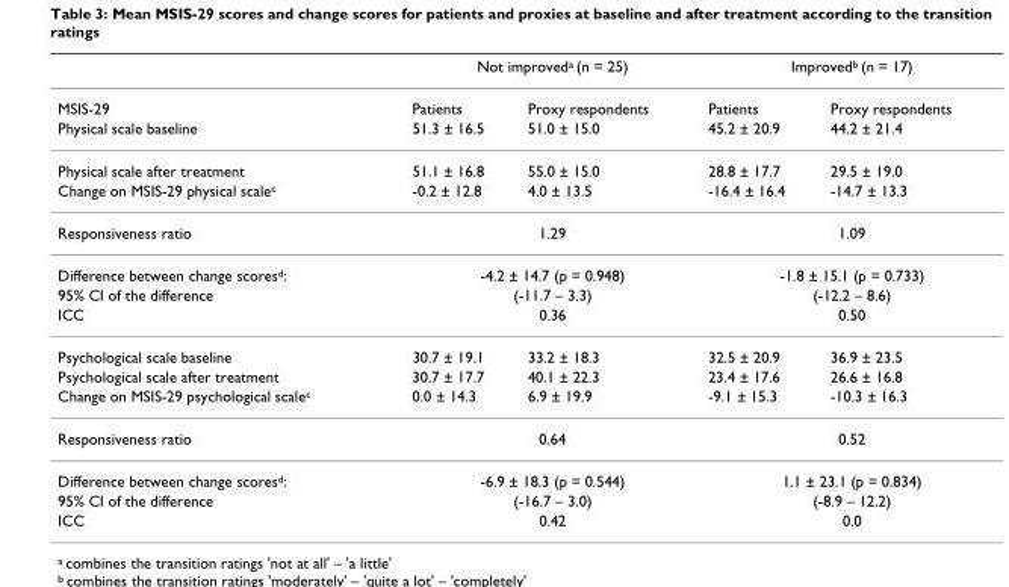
<table><thead><tr><td rowspan="2">MSIS-29</td><td colspan="2">Not improved<sup>a</sup> (n = 25)</td><td colspan="2">Improved<sup>b</sup> (n = 17)</td></tr><tr><td>Patients</td><td>Proxy respondents</td><td>Patients</td><td>Proxy respondents</td></tr></thead><tbody><tr><td>Physical scale baseline</td><td>51.3 ± 16.5</td><td>51.0 ± 15.0</td><td>45.2 ± 20.9</td><td>44.2 ± 21.4</td></tr><tr><td>Physical scale after treatment</td><td>51.1 ± 16.8</td><td>55.0 ± 15.0</td><td>28.8 ± 17.7</td><td>29.5 ± 19.0</td></tr><tr><td>Change on MSIS-29 physical scale<sup>c</sup></td><td>-0.2 ± 12.8</td><td>4.0 ± 13.5</td><td>-16.4 ± 16.4</td><td>-14.7 ± 13.3</td></tr><tr><td>Responsiveness ratio</td><td colspan="2">1.29</td><td colspan="2">1.09</td></tr><tr><td>Difference between change scores<sup>d</sup>:</td><td colspan="2">-4.2 ± 14.7 (p = 0.948)</td><td colspan="2">-1.8 ± 15.1 (p = 0.733)</td></tr><tr><td>95% CI of the difference</td><td colspan="2">(-11.7 – 3.3)</td><td colspan="2">(-12.2 – 8.6)</td></tr><tr><td>ICC</td><td colspan="2">0.36</td><td colspan="2">0.50</td></tr><tr><td>Psychological scale baseline</td><td>30.7 ± 19.1</td><td>33.2 ± 18.3</td><td>32.5 ± 20.9</td><td>36.9 ± 23.5</td></tr><tr><td>Psychological scale after treatment</td><td>30.7 ± 17.7</td><td>40.1 ± 22.3</td><td>23.4 ± 17.6</td><td>26.6 ± 16.8</td></tr><tr><td>Change on MSIS-29 psychological scale<sup>c</sup></td><td>0.0 ± 14.3</td><td>6.9 ± 19.9</td><td>-9.1 ± 15.3</td><td>-10.3 ± 16.3</td></tr><tr><td>Responsiveness ratio</td><td colspan="2">0.64</td><td colspan="2">0.52</td></tr><tr><td>Difference between change scores<sup>d</sup>:</td><td colspan="2">-6.9 ± 18.3 (p = 0.544)</td><td colspan="2">1.1 ± 23.1 (p = 0.834)</td></tr><tr><td>95% CI of the difference</td><td colspan="2">(-16.7 – 3.0)</td><td colspan="2">(-8.9 – 12.2)</td></tr><tr><td>ICC</td><td colspan="2">0.42</td><td colspan="2">0.0</td></tr></tbody></table>